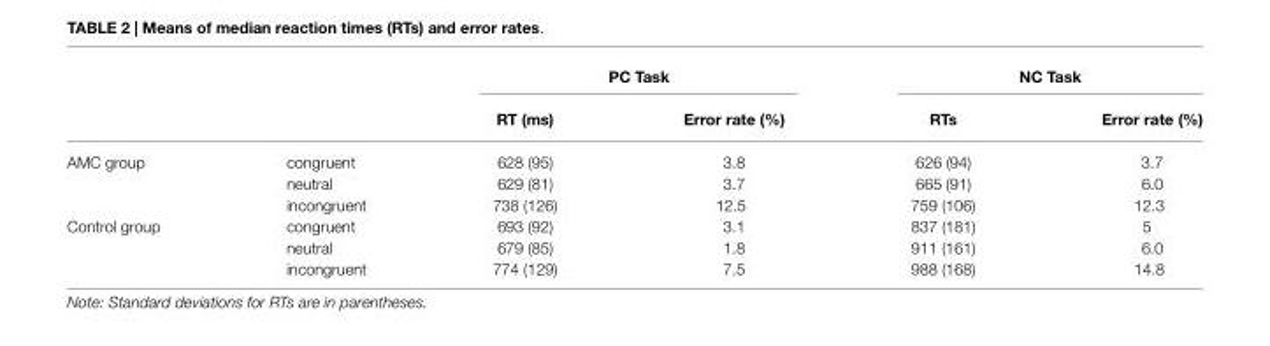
<table><thead><tr><td rowspan="2"></td><td rowspan="2"></td><td colspan="2">PC Task</td><td colspan="2">NC Task</td></tr><tr><td>RT (ms)</td><td>Error rate (%)</td><td>RTs</td><td>Error rate (%)</td></tr></thead><tbody><tr><td rowspan="3">AMC group</td><td>congruent</td><td>628 (95)</td><td>3.8</td><td>626 (94)</td><td>3.7</td></tr><tr><td>neutral</td><td>629 (81)</td><td>3.7</td><td>665 (91)</td><td>6.0</td></tr><tr><td>incongruent</td><td>738 (126)</td><td>12.5</td><td>759 (106)</td><td>12.3</td></tr><tr><td rowspan="3">Control group</td><td>congruent</td><td>693 (92)</td><td>3.1</td><td>837 (181)</td><td>5</td></tr><tr><td>neutral</td><td>679 (85)</td><td>1.8</td><td>911 (161)</td><td>6.0</td></tr><tr><td>incongruent</td><td>774 (129)</td><td>7.5</td><td>988 (168)</td><td>14.8</td></tr></tbody></table>